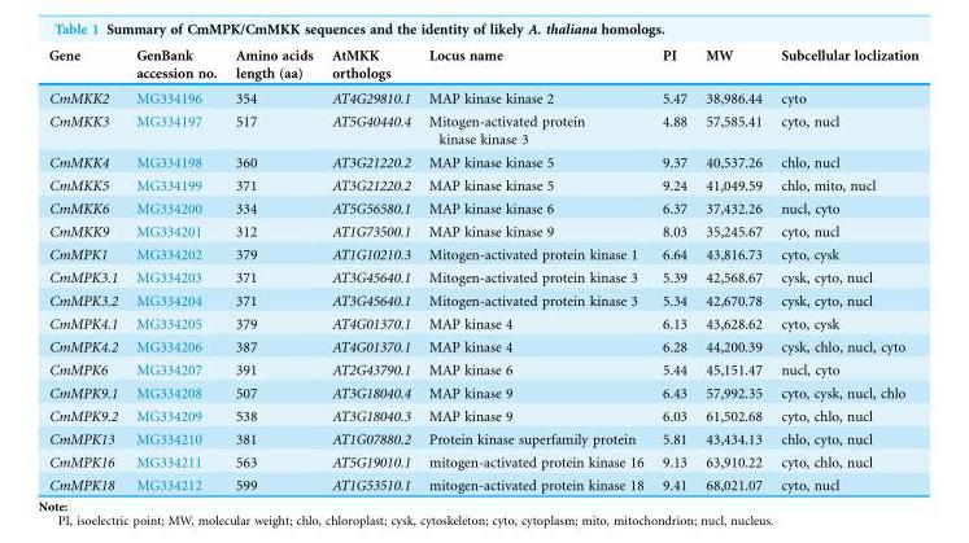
<table><thead><tr><td>Gene</td><td>GenBank accession no.</td><td>Amino acids length (aa)</td><td>AtMKK orthologs</td><td>Locus name</td><td>PI</td><td>MW</td><td>Subcellular loclization</td></tr></thead><tbody><tr><td>CmMKK2</td><td>MG334196</td><td>354</td><td>AT4G29810.1</td><td>MAP kinase kinase 2</td><td>5.47</td><td>38,986.44</td><td>cyto</td></tr><tr><td>CmMKK3</td><td>MG334197</td><td>517</td><td>AT5G40440.4</td><td>Mitogen-activated protein kinase kinase 3</td><td>4.88</td><td>57,585.41</td><td>cyto, nucl</td></tr><tr><td>CmMKK4</td><td>MG334198</td><td>360</td><td>AT3G21220.2</td><td>MAP kinase kinase 5</td><td>9.37</td><td>40,537.26</td><td>chlo, nucl</td></tr><tr><td>CmMKK5</td><td>MG334199</td><td>371</td><td>AT3G21220.2</td><td>MAP kinase kinase 5</td><td>9.24</td><td>41,049.59</td><td>chlo, mito, nucl</td></tr><tr><td>CmMKK6</td><td>MG334200</td><td>334</td><td>AT5G56580.1</td><td>MAP kinase kinase 6</td><td>6.37</td><td>37,432.26</td><td>nucl, cyto</td></tr><tr><td>CmMKK9</td><td>MG334201</td><td>312</td><td>AT1G73500.1</td><td>MAP kinase kinase 9</td><td>8.03</td><td>35,245.67</td><td>cyto, nucl</td></tr><tr><td>CmMPK1</td><td>MG334202</td><td>379</td><td>AT1G10210.3</td><td>Mitogen-activated protein kinase 1</td><td>6.64</td><td>43,816.73</td><td>cyto, cysk</td></tr><tr><td>CmMPK3.1</td><td>MG334203</td><td>371</td><td>AT3G45640.1</td><td>Mitogen-activated protein kinase 3</td><td>5.39</td><td>42,568.67</td><td>cysk, cyto, nucl</td></tr><tr><td>CmMPK3.2</td><td>MG334204</td><td>371</td><td>AT3G45640.1</td><td>Mitogen-activated protein kinase 3</td><td>5.34</td><td>42,670.78</td><td>cysk, cyto, nucl</td></tr><tr><td>CmMPK4.1</td><td>MG334205</td><td>379</td><td>AT4G01370.1</td><td>MAP kinase 4</td><td>6.13</td><td>43,628.62</td><td>cyto, cysk</td></tr><tr><td>CmMPK4.2</td><td>MG334206</td><td>387</td><td>AT4G01370.1</td><td>MAP kinase 4</td><td>6.28</td><td>44,200.39</td><td>cysk, chlo, nucl, cyto</td></tr><tr><td>CmMPK6</td><td>MG334207</td><td>391</td><td>AT2G43790.1</td><td>MAP kinase 6</td><td>5.44</td><td>45,151.47</td><td>nucl, cyto</td></tr><tr><td>CmMPK9.1</td><td>MG334208</td><td>507</td><td>AT3G18040.4</td><td>MAP kinase 9</td><td>6.43</td><td>57,992.35</td><td>cyto, cysk, nucl, chlo</td></tr><tr><td>CmMPK9.2</td><td>MG334209</td><td>538</td><td>AT3G18040.3</td><td>MAP kinase 9</td><td>6.03</td><td>61,502.68</td><td>cyto, chlo, nucl</td></tr><tr><td>CmMPK13</td><td>MG334210</td><td>381</td><td>AT1G07880.2</td><td>Protein kinase superfamily protein</td><td>5.81</td><td>43,434.13</td><td>chlo, cyto, nucl</td></tr><tr><td>CmMPK16</td><td>MG334211</td><td>563</td><td>AT5G19010.1</td><td>mitogen-activated protein kinase 16</td><td>9.13</td><td>63,910.22</td><td>cyto, chlo, nucl</td></tr><tr><td>CmMPK18</td><td>MG334212</td><td>599</td><td>AT1G53510.1</td><td>mitogen-activated protein kinase 18</td><td>9.41</td><td>68,021.07</td><td>cyto, nucl</td></tr></tbody></table>